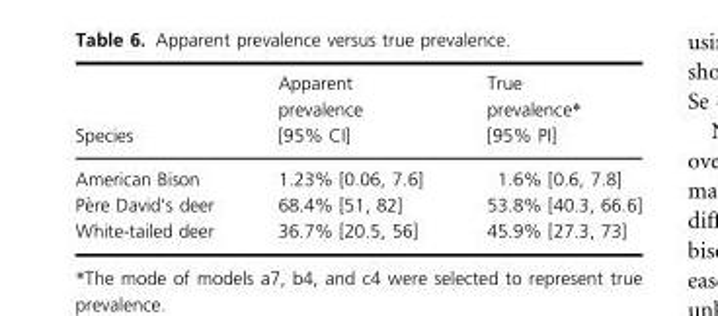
<table><thead><tr><td>Species</td><td>Apparent prevalence [95% CI]</td><td>True prevalence* [95% PI]</td></tr></thead><tbody><tr><td>American Bison</td><td>1.23% [0.06, 7.6]</td><td>1.6% [0.6, 7.8]</td></tr><tr><td>P�ere David’s deer</td><td>68.4% [51, 82]</td><td>53.8% [40.3, 66.6]</td></tr><tr><td>White-tailed deer</td><td>36.7% [20.5, 56]</td><td>45.9% [27.3, 73]</td></tr></tbody></table>